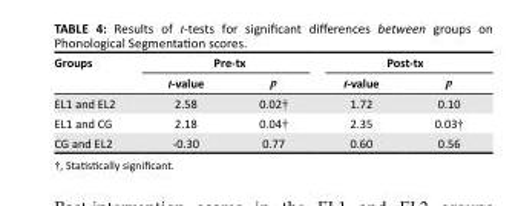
<table><thead><tr><td rowspan="2">Groups</td><td colspan="2">Pre-tx</td><td colspan="2">Post-tx</td></tr><tr><td>t-value</td><td>p</td><td>t-value</td><td>p</td></tr></thead><tbody><tr><td>EL1 and EL2</td><td>2.58</td><td>0.02†</td><td>1.72</td><td>0.10</td></tr><tr><td>EL1 and CG</td><td>2.18</td><td>0.04†</td><td>2.35</td><td>0.03†</td></tr><tr><td>CG and EL2</td><td>-0.30</td><td>0.77</td><td>0.60</td><td>0.56</td></tr></tbody></table>